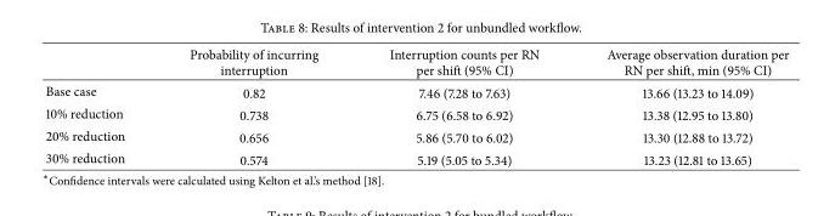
<table><thead><tr><td></td><td>Probability of incurring interruption</td><td>Interruption counts per RN per shift (95% CI)</td><td>Average observation duration per RN per shift, min (95% CI)</td></tr></thead><tbody><tr><td>Base case</td><td>0.82</td><td>7.46 (7.28 to 7.63)</td><td>13.66 (13.23 to 14.09)</td></tr><tr><td>10% reduction</td><td>0.738</td><td>6.75 (6.58 to 6.92)</td><td>13.38 (12.95 to 13.80)</td></tr><tr><td>20% reduction</td><td>0.656</td><td>5.86 (5.70 to 6.02)</td><td>13.30 (12.88 to 13.72)</td></tr><tr><td>30% reduction</td><td>0.574</td><td>5.19 (5.05 to 5.34)</td><td>13.23 (12.81 to 13.65)</td></tr></tbody></table>